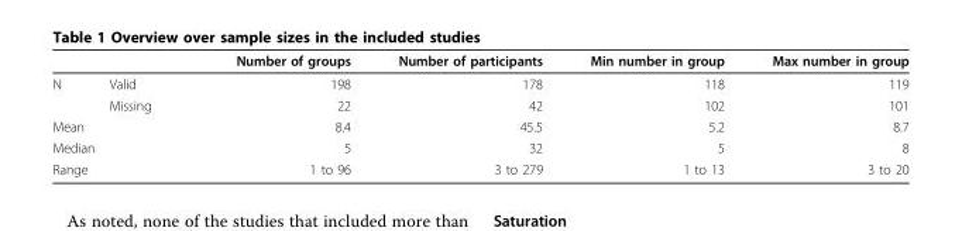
<table><thead><tr><td></td><td></td><td>Number of groups</td><td>Number of participants</td><td>Min number in group</td><td>Max number in group</td></tr></thead><tbody><tr><td rowspan="2">N</td><td>Valid</td><td>198</td><td>178</td><td>118</td><td>119</td></tr><tr><td>Missing</td><td>22</td><td>42</td><td>102</td><td>101</td></tr><tr><td colspan="2">Mean</td><td>8.4</td><td>45.5</td><td>5.2</td><td>8.7</td></tr><tr><td colspan="2">Median</td><td>5</td><td>32</td><td>5</td><td>8</td></tr><tr><td colspan="2">Range</td><td>1 to 96</td><td>3 to 279</td><td>1 to 13</td><td>3 to 20</td></tr></tbody></table>